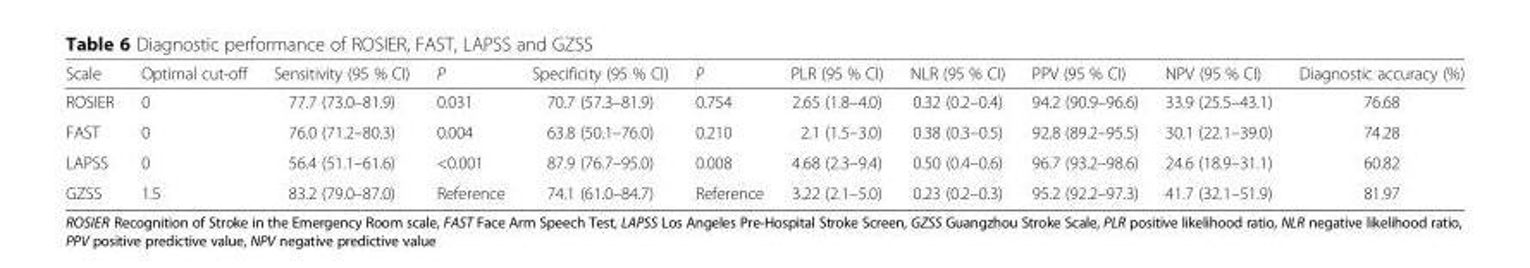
<table><thead><tr><td>Scale</td><td>Optimal cut-off</td><td>Sensitivity (95 % CI)</td><td>P</td><td>Specificity (95 % CI)</td><td>P</td><td>PLR (95 % CI)</td><td>NLR (95 % CI)</td><td>PPV (95 % CI)</td><td>NPV (95 % CI)</td><td>Diagnostic accuracy (%)</td></tr></thead><tbody><tr><td>ROSIER</td><td>0</td><td>77.7 (73.0–81.9)</td><td>0.031</td><td>70.7 (57.3–81.9)</td><td>0.754</td><td>2.65 (1.8–4.0)</td><td>0.32 (0.2–0.4)</td><td>94.2 (90.9–96.6)</td><td>33.9 (25.5–43.1)</td><td>76.68</td></tr><tr><td>FAST</td><td>0</td><td>76.0 (71.2–80.3)</td><td>0.004</td><td>63.8 (50.1–76.0)</td><td>0.210</td><td>2.1 (1.5–3.0)</td><td>0.38 (0.3–0.5)</td><td>92.8 (89.2–95.5)</td><td>30.1 (22.1–39.0)</td><td>74.28</td></tr><tr><td>LAPSS</td><td>0</td><td>56.4 (51.1–61.6)</td><td>&lt;0.001</td><td>87.9 (76.7–95.0)</td><td>0.008</td><td>4.68 (2.3–9.4)</td><td>0.50 (0.4–0.6)</td><td>96.7 (93.2–98.6)</td><td>24.6 (18.9–31.1)</td><td>60.82</td></tr><tr><td>GZSS</td><td>1.5</td><td>83.2 (79.0–87.0)</td><td>Reference</td><td>74.1 (61.0–84.7)</td><td>Reference</td><td>3.22 (2.1–5.0)</td><td>0.23 (0.2–0.3)</td><td>95.2 (92.2–97.3)</td><td>41.7 (32.1–51.9)</td><td>81.97</td></tr></tbody></table>